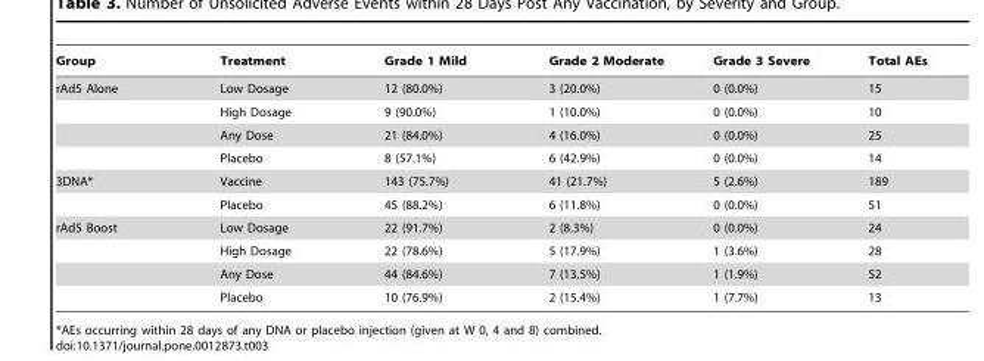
<table><thead><tr><td>Group</td><td>Treatment</td><td>Grade 1 Mild</td><td>Grade 2 Moderate</td><td>Grade 3 Severe</td><td>Total AEs</td></tr></thead><tbody><tr><td rowspan="4">rAd5 Alone</td><td>Low Dosage</td><td>12 (80.0%)</td><td>3 (20.0%)</td><td>0 (0.0%)</td><td>15</td></tr><tr><td>High Dosage</td><td>9 (90.0%)</td><td>1 (10.0%)</td><td>0 (0.0%)</td><td>10</td></tr><tr><td>Any Dose</td><td>21 (84.0%)</td><td>4 (16.0%)</td><td>0 (0.0%)</td><td>25</td></tr><tr><td>Placebo</td><td>8 (57.1%)</td><td>6 (42.9%)</td><td>0 (0.0%)</td><td>14</td></tr><tr><td rowspan="2">3DNA*</td><td>Vaccine</td><td>143 (75.7%)</td><td>41 (21.7%)</td><td>5 (2.6%)</td><td>189</td></tr><tr><td>Placebo</td><td>45 (88.2%)</td><td>6 (11.8%)</td><td>0 (0.0%)</td><td>51</td></tr><tr><td rowspan="4">rAd5 Boost</td><td>Low Dosage</td><td>22 (91.7%)</td><td>2 (8.3%)</td><td>0 (0.0%)</td><td>24</td></tr><tr><td>High Dosage</td><td>22 (78.6%)</td><td>5 (17.9%)</td><td>1 (3.6%)</td><td>28</td></tr><tr><td>Any Dose</td><td>44 (84.6%)</td><td>7 (13.5%)</td><td>1 (1.9%)</td><td>52</td></tr><tr><td>Placebo</td><td>10 (76.9%)</td><td>2 (15.4%)</td><td>1 (7.7%)</td><td>13</td></tr></tbody></table>